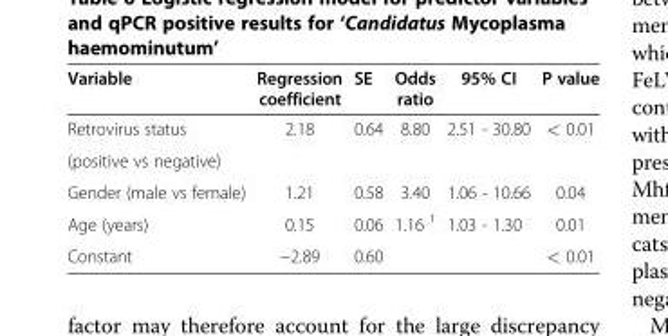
<table><thead><tr><td>Variable</td><td>Regression coefficient</td><td>SE</td><td>Odds ratio</td><td>95% CI</td><td>P value</td></tr></thead><tbody><tr><td>Retrovirus status</td><td>2.18</td><td>0.64</td><td>8.80</td><td>2.51 - 30.80</td><td>&lt; 0.01</td></tr><tr><td colspan="6">(positive vs negative)</td></tr><tr><td>Gender (male vs female)</td><td>1.21</td><td>0.58</td><td>3.40</td><td>1.06 - 10.66</td><td>0.04</td></tr><tr><td>Age (years)</td><td>0.15</td><td>0.06</td><td>1.16 <sup>1</sup></td><td>1.03 - 1.30</td><td>0.01</td></tr><tr><td>Constant</td><td>−2.89</td><td>0.60</td><td></td><td></td><td>&lt; 0.01</td></tr></tbody></table>